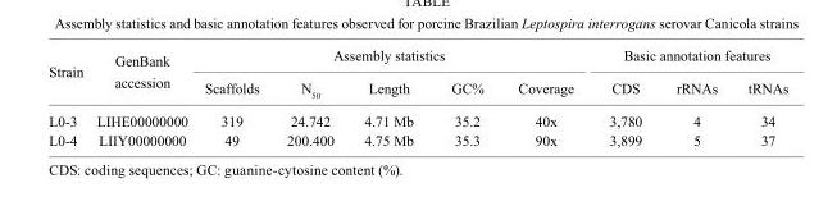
<table><thead><tr><td rowspan="2">Strain</td><td rowspan="2">GenBank accession</td><td colspan="5">Assembly statistics</td><td colspan="3">Basic annotation features</td></tr><tr><td>Scaffolds</td><td>N<sub>50</sub></td><td>Length</td><td>GC%</td><td>Coverage</td><td>CDS</td><td>rRNAs</td><td>tRNAs</td></tr></thead><tbody><tr><td>L0-3</td><td>LIHE00000000</td><td>319</td><td>24.742</td><td>4.71 Mb</td><td>35.2</td><td>40x</td><td>3,780</td><td>4</td><td>34</td></tr><tr><td>L0-4</td><td>LIIY00000000</td><td>49</td><td>200.400</td><td>4.75 Mb</td><td>35.3</td><td>90x</td><td>3,899</td><td>5</td><td>37</td></tr></tbody></table>